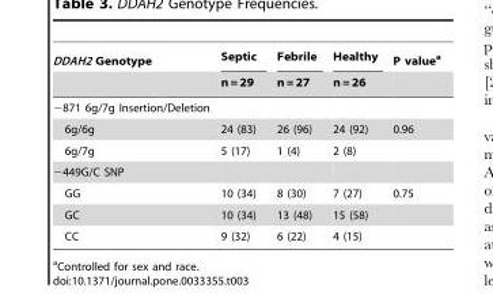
<table><thead><tr><td rowspan="2">DDAH2 Genotype</td><td rowspan="2">Septic n = 29</td><td rowspan="2">Febrile n = 27</td><td rowspan="2">Healthy n = 26</td><td rowspan="2">P value<sup>a</sup></td></tr><tr></tr></thead><tbody><tr><td colspan="5">−871 6g/7g Insertion/Deletion</td></tr><tr><td>6g/6g</td><td>24 (83)</td><td>26 (96)</td><td>24 (92)</td><td>0.96</td></tr><tr><td>6g/7g</td><td>5 (17)</td><td>1 (4)</td><td>2 (8)</td><td></td></tr><tr><td colspan="5">−449G/C SNP</td></tr><tr><td>GG</td><td>10 (34)</td><td>8 (30)</td><td>7 (27)</td><td>0.75</td></tr><tr><td>GC</td><td>10 (34)</td><td>13 (48)</td><td>15 (58)</td><td></td></tr><tr><td>CC</td><td>9 (32)</td><td>6 (22)</td><td>4 (15)</td><td></td></tr></tbody></table>